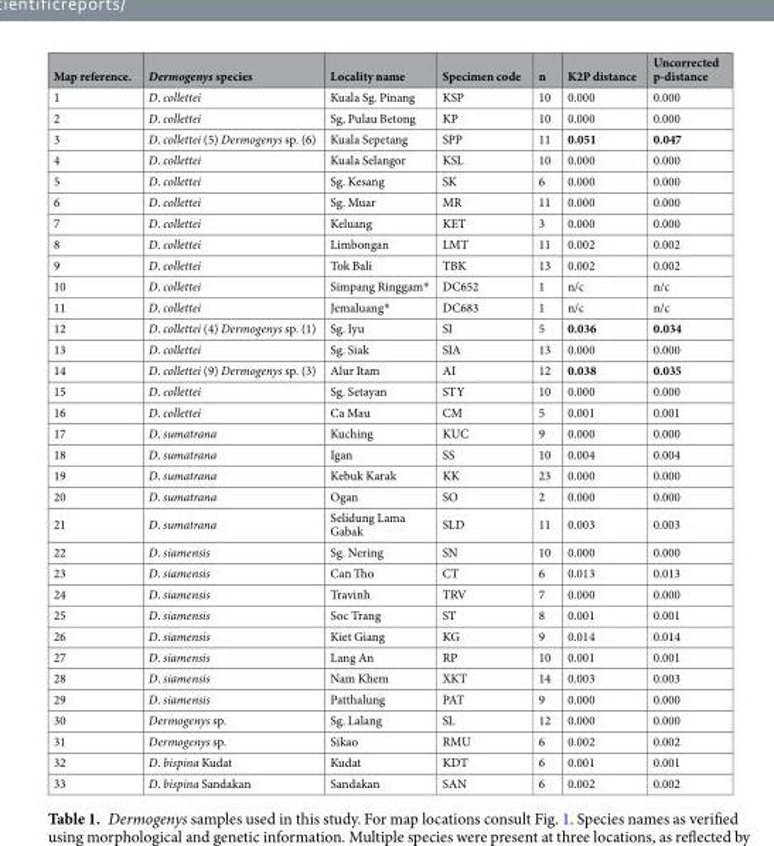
<table><thead><tr><td>Map reference.</td><td>Dermogenys species</td><td>Locality name</td><td>Specimen code</td><td>n</td><td>K2P distance</td><td>Uncorrected p-distance</td></tr></thead><tbody><tr><td>1</td><td>D. collettei</td><td>Kuala Sg. Pinang</td><td>KSP</td><td>10</td><td>0.000</td><td>0.000</td></tr><tr><td>2</td><td>D. collettei</td><td>Sg, Pulau Betong</td><td>KP</td><td>10</td><td>0.000</td><td>0.000</td></tr><tr><td>3</td><td>D. collettei (5) Dermogenys sp. (6)</td><td>Kuala Sepetang</td><td>SPP</td><td>11</td><td>0.051</td><td>0.047</td></tr><tr><td>4</td><td>D. collettei</td><td>Kuala Selangor</td><td>KSL</td><td>10</td><td>0.000</td><td>0.000</td></tr><tr><td>5</td><td>D. collettei</td><td>Sg. Kesang</td><td>SK</td><td>6</td><td>0.000</td><td>0.000</td></tr><tr><td>6</td><td>D. collettei</td><td>Sg. Muar</td><td>MR</td><td>11</td><td>0.000</td><td>0.000</td></tr><tr><td>7</td><td>D. collettei</td><td>Keluang</td><td>KET</td><td>3</td><td>0.000</td><td>0.000</td></tr><tr><td>8</td><td>D. collettei</td><td>Limbongan</td><td>LMT</td><td>11</td><td>0.002</td><td>0.002</td></tr><tr><td>9</td><td>D. collettei</td><td>Tok Bali</td><td>TBK</td><td>13</td><td>0.002</td><td>0.002</td></tr><tr><td>10</td><td>D. collettei</td><td>Simpang Ringgam*</td><td>DC652</td><td>1</td><td>n/c</td><td>n/c</td></tr><tr><td>11</td><td>D. collettei</td><td>Jemaluang*</td><td>DC683</td><td>1</td><td>n/c</td><td>n/c</td></tr><tr><td>12</td><td>D. collettei (4) Dermogenys sp. (1)</td><td>Sg. Iyu</td><td>SI</td><td>5</td><td>0.036</td><td>0.034</td></tr><tr><td>13</td><td>D. collettei</td><td>Sg. Siak</td><td>SIA</td><td>13</td><td>0.000</td><td>0.000</td></tr><tr><td>14</td><td>D. collettei (9) Dermogenys sp. (3)</td><td>Alur Itam</td><td>AI</td><td>12</td><td>0.038</td><td>0.035</td></tr><tr><td>15</td><td>D. collettei</td><td>Sg. Setayan</td><td>STY</td><td>10</td><td>0.000</td><td>0.000</td></tr><tr><td>16</td><td>D. collettei</td><td>Ca Mau</td><td>CM</td><td>5</td><td>0.001</td><td>0.001</td></tr><tr><td>17</td><td>D. sumatrana</td><td>Kuching</td><td>KUC</td><td>9</td><td>0.000</td><td>0.000</td></tr><tr><td>18</td><td>D. sumatrana</td><td>Igan</td><td>SS</td><td>10</td><td>0.004</td><td>0.004</td></tr><tr><td>19</td><td>D. sumatrana</td><td>Kebuk Karak</td><td>KK</td><td>23</td><td>0.000</td><td>0.000</td></tr><tr><td>20</td><td>D. sumatrana</td><td>Ogan</td><td>SO</td><td>2</td><td>0.000</td><td>0.000</td></tr><tr><td>21</td><td>D. sumatrana</td><td>Selidung Lama Gabak</td><td>SLD</td><td>11</td><td>0.003</td><td>0.003</td></tr><tr><td>22</td><td>D. siamensis</td><td>Sg. Nering</td><td>SN</td><td>10</td><td>0.000</td><td>0.000</td></tr><tr><td>23</td><td>D. siamensis</td><td>Can Tho</td><td>CT</td><td>6</td><td>0.013</td><td>0.013</td></tr><tr><td>24</td><td>D. siamensis</td><td>Travinh</td><td>TRV</td><td>7</td><td>0.000</td><td>0.000</td></tr><tr><td>25</td><td>D. siamensis</td><td>Soc Trang</td><td>ST</td><td>8</td><td>0.001</td><td>0.001</td></tr><tr><td>26</td><td>D. siamensis</td><td>Kiet Giang</td><td>KG</td><td>9</td><td>0.014</td><td>0.014</td></tr><tr><td>27</td><td>D. siamensis</td><td>Lang An</td><td>RP</td><td>10</td><td>0.001</td><td>0.001</td></tr><tr><td>28</td><td>D. siamensis</td><td>Nam Khem</td><td>XKT</td><td>14</td><td>0.003</td><td>0.003</td></tr><tr><td>29</td><td>D. siamensis</td><td>Patthalung</td><td>PAT</td><td>9</td><td>0.000</td><td>0.000</td></tr><tr><td>30</td><td>Dermogenys sp.</td><td>Sg. Lalang</td><td>SL</td><td>12</td><td>0.000</td><td>0.000</td></tr><tr><td>31</td><td>Dermogenys sp.</td><td>Sikao</td><td>RMU</td><td>6</td><td>0.002</td><td>0.002</td></tr><tr><td>32</td><td>D. bispina Kudat</td><td>Kudat</td><td>KDT</td><td>6</td><td>0.001</td><td>0.001</td></tr><tr><td>33</td><td>D. bispina Sandakan</td><td>Sandakan</td><td>SAN</td><td>6</td><td>0.002</td><td>0.002</td></tr></tbody></table>